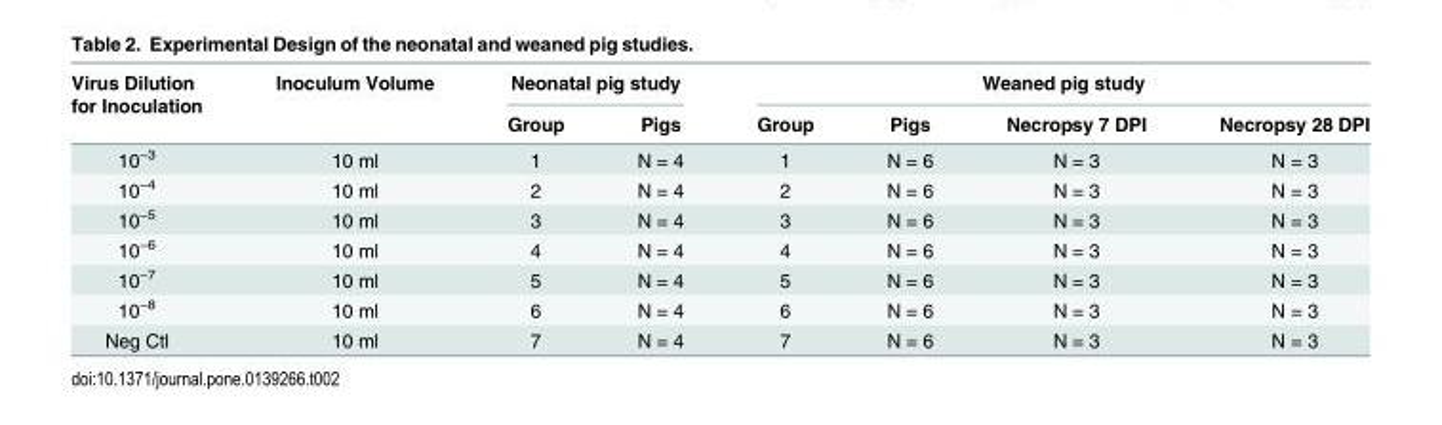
<table><thead><tr><td rowspan="2">Virus Dilution for Inoculation</td><td rowspan="2">Inoculum Volume</td><td colspan="2">Neonatal pig study</td><td colspan="4">Weaned pig study</td></tr><tr><td>Group</td><td>Pigs</td><td>Group</td><td>Pigs</td><td>Necropsy 7 DPI</td><td>Necropsy 28 DPI</td></tr></thead><tbody><tr><td>10<sup>−3</sup></td><td>10 ml</td><td>1</td><td>N = 4</td><td>1</td><td>N = 6</td><td>N = 3</td><td>N = 3</td></tr><tr><td>10<sup>−4</sup></td><td>10 ml</td><td>2</td><td>N = 4</td><td>2</td><td>N = 6</td><td>N = 3</td><td>N = 3</td></tr><tr><td>10<sup>−5</sup></td><td>10 ml</td><td>3</td><td>N = 4</td><td>3</td><td>N = 6</td><td>N = 3</td><td>N = 3</td></tr><tr><td>10<sup>−6</sup></td><td>10 ml</td><td>4</td><td>N = 4</td><td>4</td><td>N = 6</td><td>N = 3</td><td>N = 3</td></tr><tr><td>10<sup>−7</sup></td><td>10 ml</td><td>5</td><td>N = 4</td><td>5</td><td>N = 6</td><td>N = 3</td><td>N = 3</td></tr><tr><td>10<sup>−8</sup></td><td>10 ml</td><td>6</td><td>N = 4</td><td>6</td><td>N = 6</td><td>N = 3</td><td>N = 3</td></tr><tr><td>Neg Ctl</td><td>10 ml</td><td>7</td><td>N = 4</td><td>7</td><td>N = 6</td><td>N = 3</td><td>N = 3</td></tr></tbody></table>